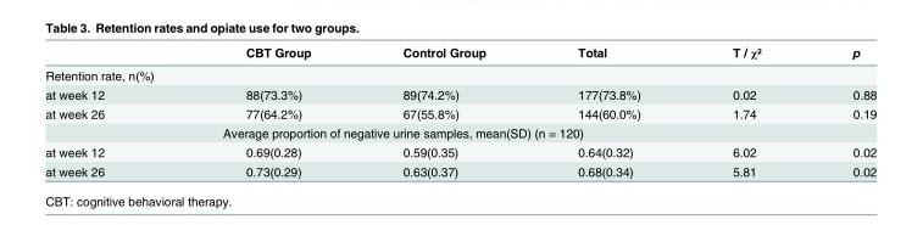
<table><thead><tr><td></td><td>CBT Group</td><td>Control Group</td><td>Total</td><td>T / χ²</td><td>p</td></tr></thead><tbody><tr><td colspan="6">Retention rate, n(%)</td></tr><tr><td>at week 12</td><td>88(73.3%)</td><td>89(74.2%)</td><td>177(73.8%)</td><td>0.02</td><td>0.88</td></tr><tr><td>at week 26</td><td>77(64.2%)</td><td>67(55.8%)</td><td>144(60.0%)</td><td>1.74</td><td>0.19</td></tr><tr><td colspan="6">Average proportion of negative urine samples, mean(SD) (n = 120)</td></tr><tr><td>at week 12</td><td>0.69(0.28)</td><td>0.59(0.35)</td><td>0.64(0.32)</td><td>6.02</td><td>0.02</td></tr><tr><td>at week 26</td><td>0.73(0.29)</td><td>0.63(0.37)</td><td>0.68(0.34)</td><td>5.81</td><td>0.02</td></tr></tbody></table>